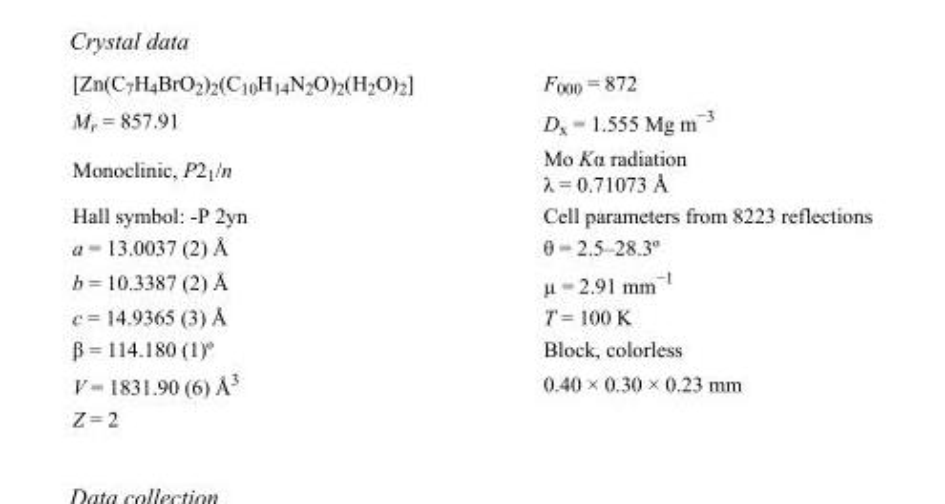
<table><tbody><tr><td>[Zn(C<sub>7</sub>H<sub>4</sub>BrO<sub>2</sub>)<sub>2</sub>(C<sub>10</sub>H<sub>14</sub>N<sub>2</sub>O)<sub>2</sub>(H<sub>2</sub>O)<sub>2</sub>]</td><td>F000 = 872</td></tr><tr><td>M<sub>r</sub> = 857.91</td><td>D<sub>x</sub> = 1.555 Mg m<sup>−3</sup></td></tr><tr><td>Monoclinic, P2<sub>1</sub>/n</td><td>Mo Kα radiation λ = 0.71073 Å</td></tr><tr><td>Hall symbol: -P 2yn</td><td>Cell parameters from 8223 reflections</td></tr><tr><td>a = 13.0037 (2) Å</td><td>θ = 2.5–28.3º</td></tr><tr><td>b = 10.3387 (2) Å</td><td>µ = 2.91 mm<sup>−1</sup></td></tr><tr><td>c = 14.9365 (3) Å</td><td>T = 100 K</td></tr><tr><td>β = 114.180 (1)º</td><td>Block, colorless</td></tr><tr><td>V = 1831.90 (6) Å<sup>3</sup></td><td>0.40 × 0.30 × 0.23 mm</td></tr><tr><td>Z = 2</td><td></td></tr></tbody></table>